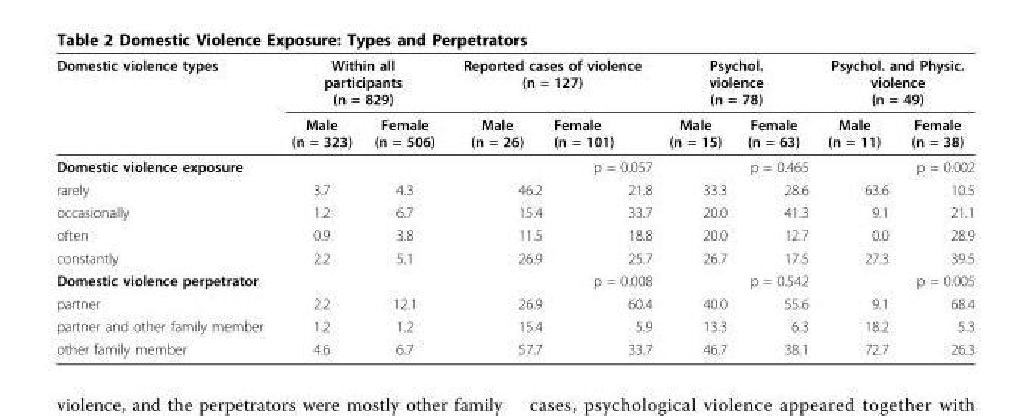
<table><thead><tr><td rowspan="2">Domestic violence types</td><td colspan="2">Within all participants (n = 829)</td><td colspan="2">Reported cases of violence (n = 127)</td><td colspan="2">Psychol. violence (n = 78)</td><td colspan="2">Psychol. and Physic. violence (n = 49)</td></tr><tr><td>Male (n = 323)</td><td>Female (n = 506)</td><td>Male (n = 26)</td><td>Female (n = 101)</td><td>Male (n = 15)</td><td>Female (n = 63)</td><td>Male (n = 11)</td><td>Female (n = 38)</td></tr></thead><tbody><tr><td>Domestic violence exposure</td><td></td><td></td><td></td><td>p = 0.057</td><td></td><td>p = 0.465</td><td></td><td>p = 0.002</td></tr><tr><td>rarely</td><td>3.7</td><td>4.3</td><td>46.2</td><td>21.8</td><td>33.3</td><td>28.6</td><td>63.6</td><td>10.5</td></tr><tr><td>occasionally</td><td>1.2</td><td>6.7</td><td>15.4</td><td>33.7</td><td>20.0</td><td>41.3</td><td>9.1</td><td>21.1</td></tr><tr><td>often</td><td>0.9</td><td>3.8</td><td>11.5</td><td>18.8</td><td>20.0</td><td>12.7</td><td>0.0</td><td>28.9</td></tr><tr><td>constantly</td><td>2.2</td><td>5.1</td><td>26.9</td><td>25.7</td><td>26.7</td><td>17.5</td><td>27.3</td><td>39.5</td></tr><tr><td>Domestic violence perpetrator</td><td></td><td></td><td></td><td>p = 0.008</td><td></td><td>p = 0.542</td><td></td><td>p = 0.005</td></tr><tr><td>partner</td><td>2.2</td><td>12.1</td><td>26.9</td><td>60.4</td><td>40.0</td><td>55.6</td><td>9.1</td><td>68.4</td></tr><tr><td>partner and other family member</td><td>1.2</td><td>1.2</td><td>15.4</td><td>5.9</td><td>13.3</td><td>6.3</td><td>18.2</td><td>5.3</td></tr><tr><td>other family member</td><td>4.6</td><td>6.7</td><td>57.7</td><td>33.7</td><td>46.7</td><td>38.1</td><td>72.7</td><td>26.3</td></tr></tbody></table>